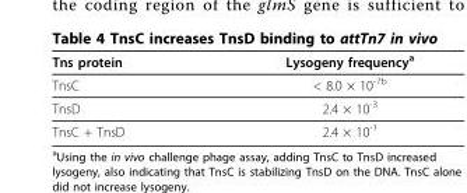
<table><thead><tr><td>Tns protein</td><td>Lysogeny frequency<sup>a</sup></td></tr></thead><tbody><tr><td>TnsC</td><td>&lt; 8.0 × 10<sup>-7b</sup></td></tr><tr><td>TnsD</td><td>2.4 × 10<sup>-3</sup></td></tr><tr><td>TnsC + TnsD</td><td>2.4 × 10<sup>-1</sup></td></tr></tbody></table>